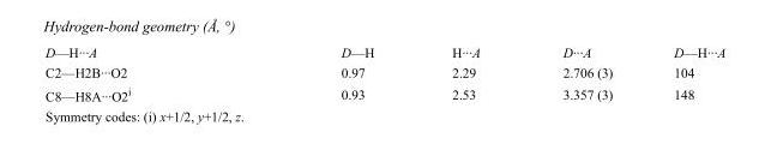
<table><tbody><tr><td>D—H···A</td><td>D—H</td><td>H···A</td><td>D···A</td><td>D—H···A</td></tr><tr><td>C2—H2B···O2</td><td>0.97</td><td>2.29</td><td>2.706 (3)</td><td>104</td></tr><tr><td>C8—H8A···O2<sup>i</sup></td><td>0.93</td><td>2.53</td><td>3.357 (3)</td><td>148</td></tr></tbody></table>